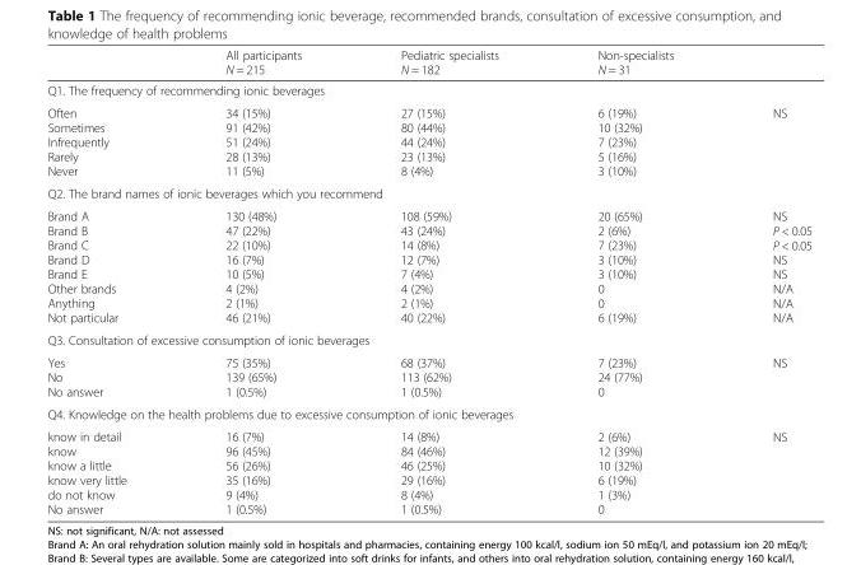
<table><thead><tr><td></td><td>All participants N = 215</td><td>Pediatric specialists N = 182</td><td>Non-specialists N = 31</td><td></td></tr></thead><tbody><tr><td colspan="5">Q1. The frequency of recommending ionic beverages</td></tr><tr><td>Often Sometimes Infrequently Rarely Never</td><td>34 (15%) 91 (42%) 51 (24%) 28 (13%) 11 (5%)</td><td>27 (15%) 80 (44%) 44 (24%) 23 (13%) 8 (4%)</td><td>6 (19%) 10 (32%) 7 (23%) 5 (16%) 3 (10%)</td><td>NS</td></tr><tr><td colspan="5">Q2. The brand names of ionic beverages which you recommend</td></tr><tr><td>Brand A Brand B Brand C Brand D Brand E Other brands Anything Not particular</td><td>130 (48%) 47 (22%) 22 (10%) 16 (7%) 10 (5%) 4 (2%) 2 (1%) 46 (21%)</td><td>108 (59%) 43 (24%) 14 (8%) 12 (7%) 7 (4%) 4 (2%) 2 (1%) 40 (22%)</td><td>20 (65%) 2 (6%) 7 (23%) 3 (10%) 3 (10%) 0 0 6 (19%)</td><td>NS P &lt; 0.05 P &lt; 0.05 NS NS N/A N/A N/A</td></tr><tr><td colspan="5">Q3. Consultation of excessive consumption of ionic beverages</td></tr><tr><td>Yes No No answer</td><td>75 (35%) 139 (65%) 1 (0.5%)</td><td>68 (37%) 113 (62%) 1 (0.5%)</td><td>7 (23%) 24 (77%) 0</td><td>NS</td></tr><tr><td colspan="5">Q4. Knowledge on the health problems due to excessive consumption of ionic beverages</td></tr><tr><td>know in detail know know a little know very little do not know No answer</td><td>16 (7%) 96 (45%) 56 (26%) 35 (16%) 9 (4%) 1 (0.5%)</td><td>14 (8%) 84 (46%) 46 (25%) 29 (16%) 8 (4%) 1 (0.5%)</td><td>2 (6%) 12 (39%) 10 (32%) 6 (19%) 1 (3%) 0</td><td>NS</td></tr></tbody></table>